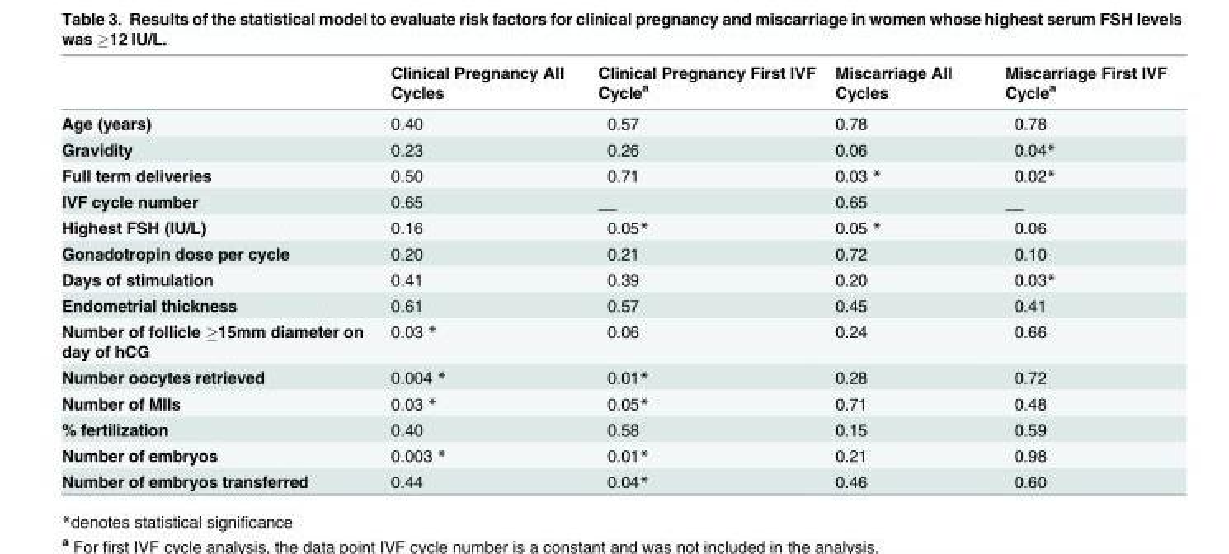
<table><thead><tr><td></td><td>Clinical Pregnancy All Cycles</td><td>Clinical Pregnancy First IVF Cycle<sup>a</sup></td><td>Miscarriage All Cycles</td><td>Miscarriage First IVF Cycle<sup>a</sup></td></tr></thead><tbody><tr><td>Age (years)</td><td>0.40</td><td>0.57</td><td>0.78</td><td>0.78</td></tr><tr><td>Gravidity</td><td>0.23</td><td>0.26</td><td>0.06</td><td>0.04*</td></tr><tr><td>Full term deliveries</td><td>0.50</td><td>0.71</td><td>0.03 *</td><td>0.02*</td></tr><tr><td>IVF cycle number</td><td>0.65</td><td>__</td><td>0.65</td><td>__</td></tr><tr><td>Highest FSH (IU/L)</td><td>0.16</td><td>0.05*</td><td>0.05 *</td><td>0.06</td></tr><tr><td>Gonadotropin dose per cycle</td><td>0.20</td><td>0.21</td><td>0.72</td><td>0.10</td></tr><tr><td>Days of stimulation</td><td>0.41</td><td>0.39</td><td>0.20</td><td>0.03*</td></tr><tr><td>Endometrial thickness</td><td>0.61</td><td>0.57</td><td>0.45</td><td>0.41</td></tr><tr><td>Number of follicle ≥15mm diameter on day of hCG</td><td>0.03 *</td><td>0.06</td><td>0.24</td><td>0.66</td></tr><tr><td>Number oocytes retrieved</td><td>0.004 *</td><td>0.01*</td><td>0.28</td><td>0.72</td></tr><tr><td>Number of MIIs</td><td>0.03 *</td><td>0.05*</td><td>0.71</td><td>0.48</td></tr><tr><td>% fertilization</td><td>0.40</td><td>0.58</td><td>0.15</td><td>0.59</td></tr><tr><td>Number of embryos</td><td>0.003 *</td><td>0.01*</td><td>0.21</td><td>0.98</td></tr><tr><td>Number of embryos transferred</td><td>0.44</td><td>0.04*</td><td>0.46</td><td>0.60</td></tr></tbody></table>